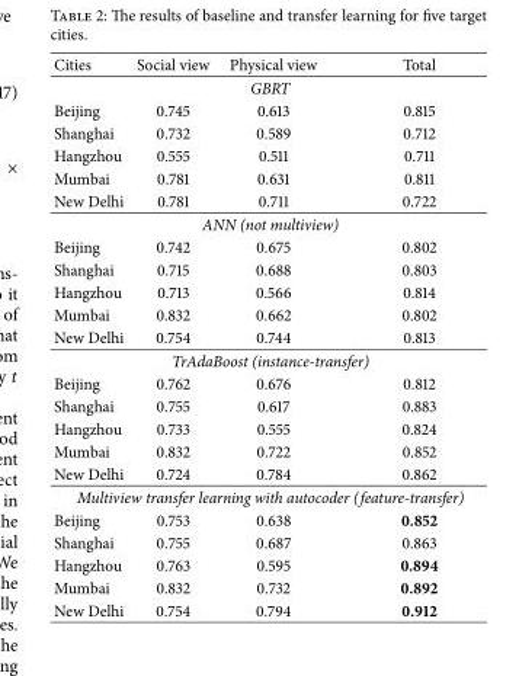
<table><tbody><tr><td>Cities</td><td>Social view</td><td>Physical view</td><td>Total</td></tr><tr><td colspan="4">GBRT</td></tr><tr><td>Beijing</td><td>0.745</td><td>0.613</td><td>0.815</td></tr><tr><td>Shanghai</td><td>0.732</td><td>0.589</td><td>0.712</td></tr><tr><td>Hangzhou</td><td>0.555</td><td>0.511</td><td>0.711</td></tr><tr><td>Mumbai</td><td>0.781</td><td>0.631</td><td>0.811</td></tr><tr><td>New Delhi</td><td>0.781</td><td>0.711</td><td>0.722</td></tr><tr><td colspan="4">ANN (not multiview)</td></tr><tr><td>Beijing</td><td>0.742</td><td>0.675</td><td>0.802</td></tr><tr><td>Shanghai</td><td>0.715</td><td>0.688</td><td>0.803</td></tr><tr><td>Hangzhou</td><td>0.713</td><td>0.566</td><td>0.814</td></tr><tr><td>Mumbai</td><td>0.832</td><td>0.662</td><td>0.802</td></tr><tr><td>New Delhi</td><td>0.754</td><td>0.744</td><td>0.813</td></tr><tr><td colspan="4">TrAdaBoost (instance-transfer)</td></tr><tr><td>Beijing</td><td>0.762</td><td>0.676</td><td>0.812</td></tr><tr><td>Shanghai</td><td>0.755</td><td>0.617</td><td>0.883</td></tr><tr><td>Hangzhou</td><td>0.733</td><td>0.555</td><td>0.824</td></tr><tr><td>Mumbai</td><td>0.832</td><td>0.722</td><td>0.852</td></tr><tr><td>New Delhi</td><td>0.724</td><td>0.784</td><td>0.862</td></tr><tr><td colspan="4">Multiview transfer learning with autocoder (feature-transfer)</td></tr><tr><td>Beijing</td><td>0.753</td><td>0.638</td><td>0.852</td></tr><tr><td>Shanghai</td><td>0.755</td><td>0.687</td><td>0.863</td></tr><tr><td>Hangzhou</td><td>0.763</td><td>0.595</td><td>0.894</td></tr><tr><td>Mumbai</td><td>0.832</td><td>0.732</td><td>0.892</td></tr><tr><td>New Delhi</td><td>0.754</td><td>0.794</td><td>0.912</td></tr></tbody></table>